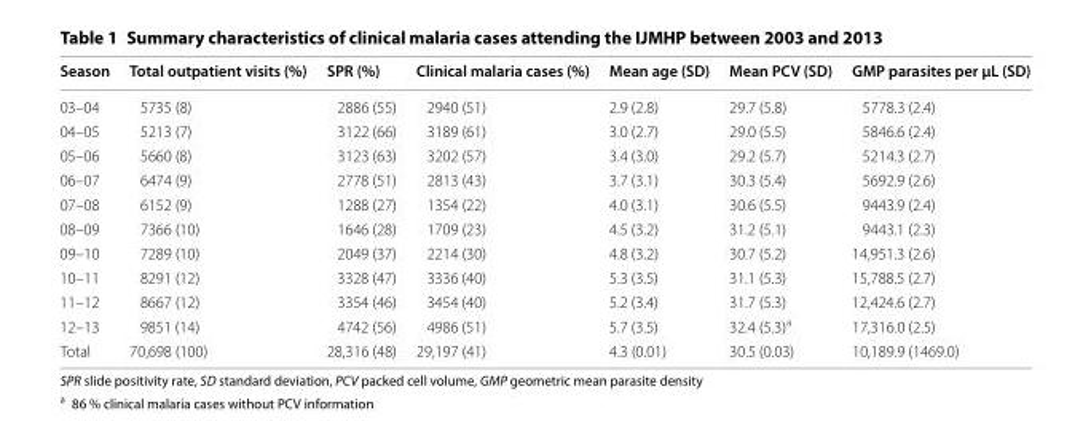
<table><thead><tr><td>Season</td><td>Total outpatient visits (%)</td><td>SPR (%)</td><td>Clinical malaria cases (%)</td><td>Mean age (SD)</td><td>Mean PCV (SD)</td><td>GMP parasites per µL (SD)</td></tr></thead><tbody><tr><td>03–04</td><td>5735 (8)</td><td>2886 (55)</td><td>2940 (51)</td><td>2.9 (2.8)</td><td>29.7 (5.8)</td><td>5778.3 (2.4)</td></tr><tr><td>04–05</td><td>5213 (7)</td><td>3122 (66)</td><td>3189 (61)</td><td>3.0 (2.7)</td><td>29.0 (5.5)</td><td>5846.6 (2.4)</td></tr><tr><td>05–06</td><td>5660 (8)</td><td>3123 (63)</td><td>3202 (57)</td><td>3.4 (3.0)</td><td>29.2 (5.7)</td><td>5214.3 (2.7)</td></tr><tr><td>06–07</td><td>6474 (9)</td><td>2778 (51)</td><td>2813 (43)</td><td>3.7 (3.1)</td><td>30.3 (5.4)</td><td>5692.9 (2.6)</td></tr><tr><td>07–08</td><td>6152 (9)</td><td>1288 (27)</td><td>1354 (22)</td><td>4.0 (3.1)</td><td>30.6 (5.5)</td><td>9443.9 (2.4)</td></tr><tr><td>08–09</td><td>7366 (10)</td><td>1646 (28)</td><td>1709 (23)</td><td>4.5 (3.2)</td><td>31.2 (5.1)</td><td>9443.1 (2.3)</td></tr><tr><td>09–10</td><td>7289 (10)</td><td>2049 (37)</td><td>2214 (30)</td><td>4.8 (3.2)</td><td>30.7 (5.2)</td><td>14,951.3 (2.6)</td></tr><tr><td>10–11</td><td>8291 (12)</td><td>3328 (47)</td><td>3336 (40)</td><td>5.3 (3.5)</td><td>31.1 (5.3)</td><td>15,788.5 (2.7)</td></tr><tr><td>11–12</td><td>8667 (12)</td><td>3354 (46)</td><td>3454 (40)</td><td>5.2 (3.4)</td><td>31.7 (5.3)</td><td>12,424.6 (2.7)</td></tr><tr><td>12–13</td><td>9851 (14)</td><td>4742 (56)</td><td>4986 (51)</td><td>5.7 (3.5)</td><td>32.4 (5.3)<sup>a</sup></td><td>17,316.0 (2.5)</td></tr><tr><td>Total</td><td>70,698 (100)</td><td>28,316 (48)</td><td>29,197 (41)</td><td>4.3 (0.01)</td><td>30.5 (0.03)</td><td>10,189.9 (1469.0)</td></tr></tbody></table>